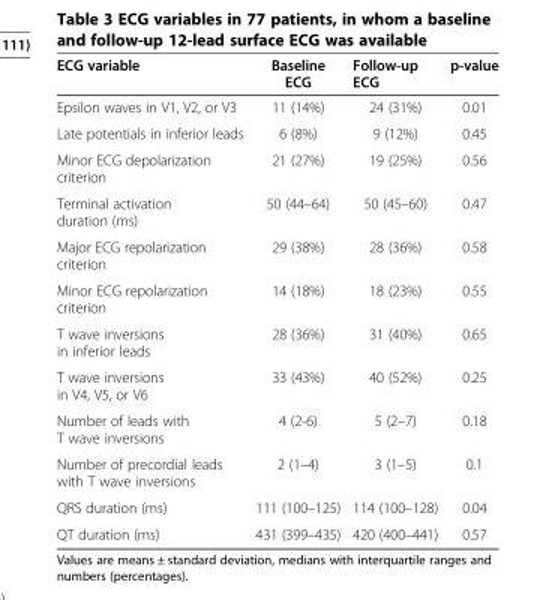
<table><thead><tr><td>ECG variable</td><td>Baseline ECG</td><td>Follow-up ECG</td><td>p-value</td></tr></thead><tbody><tr><td>Epsilon waves in V1, V2, or V3</td><td>11 (14%)</td><td>24 (31%)</td><td>0.01</td></tr><tr><td>Late potentials in inferior leads</td><td>6 (8%)</td><td>9 (12%)</td><td>0.45</td></tr><tr><td>Minor ECG depolarization criterion</td><td>21 (27%)</td><td>19 (25%)</td><td>0.56</td></tr><tr><td>Terminal activation duration (ms)</td><td>50 (44–64)</td><td>50 (45–60)</td><td>0.47</td></tr><tr><td>Major ECG repolarization criterion</td><td>29 (38%)</td><td>28 (36%)</td><td>0.58</td></tr><tr><td>Minor ECG repolarization criterion</td><td>14 (18%)</td><td>18 (23%)</td><td>0.55</td></tr><tr><td>T wave inversions in inferior leads</td><td>28 (36%)</td><td>31 (40%)</td><td>0.65</td></tr><tr><td>T wave inversions in V4, V5, or V6</td><td>33 (43%)</td><td>40 (52%)</td><td>0.25</td></tr><tr><td>Number of leads with T wave inversions</td><td>4 (2-6)</td><td>5 (2–7)</td><td>0.18</td></tr><tr><td>Number of precordial leads with T wave inversions</td><td>2 (1–4)</td><td>3 (1–5)</td><td>0.1</td></tr><tr><td>QRS duration (ms)</td><td>111 (100–125)</td><td>114 (100–128)</td><td>0.04</td></tr><tr><td>QT duration (ms)</td><td>431 (399–435)</td><td>420 (400–441)</td><td>0.57</td></tr></tbody></table>